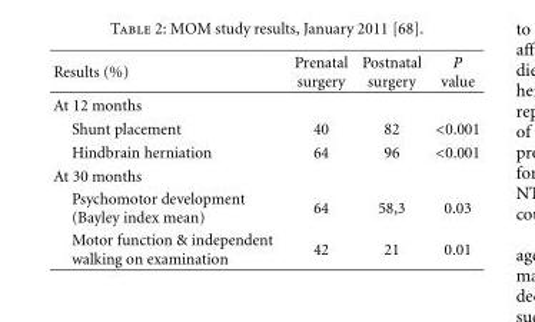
<table><thead><tr><td>Results (%)</td><td>Prenatal surgery</td><td>Postnatal surgery</td><td>P value</td></tr></thead><tbody><tr><td colspan="4">At 12 months</td></tr><tr><td>Shunt placement</td><td>40</td><td>82</td><td>&lt;0.001</td></tr><tr><td>Hindbrain herniation</td><td>64</td><td>96</td><td>&lt;0.001</td></tr><tr><td colspan="4">At 30 months</td></tr><tr><td>Psychomotor development (Bayley index mean)</td><td>64</td><td>58,3</td><td>0.03</td></tr><tr><td>Motor function &amp; independent walking on examination</td><td>42</td><td>21</td><td>0.01</td></tr></tbody></table>